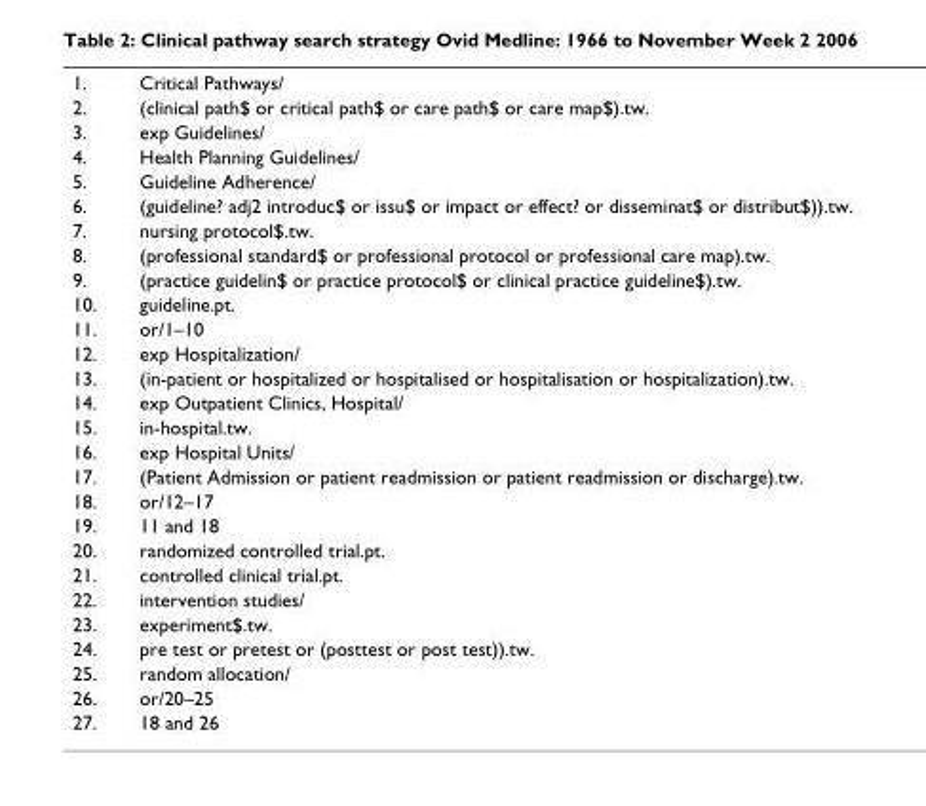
<table><tbody><tr><td>1.</td><td>Critical Pathways/</td></tr><tr><td>2.</td><td>(clinical path$ or critical path$ or care path$ or care map$).tw.</td></tr><tr><td>3.</td><td>exp Guidelines/</td></tr><tr><td>4.</td><td>Health Planning Guidelines/</td></tr><tr><td>5.</td><td>Guideline Adherence/</td></tr><tr><td>6.</td><td>(guideline? adj2 introduc$ or issu$ or impact or effect? or disseminat$ or distribut$)).tw.</td></tr><tr><td>7.</td><td>nursing protocol$.tw.</td></tr><tr><td>8.</td><td>(professional standard$ or professional protocol or professional care map).tw.</td></tr><tr><td>9.</td><td>(practice guidelin$ or practice protocol$ or clinical practice guideline$).tw.</td></tr><tr><td>10.</td><td>guideline.pt.</td></tr><tr><td>11.</td><td>or/1–10</td></tr><tr><td>12.</td><td>exp Hospitalization/</td></tr><tr><td>13.</td><td>(in-patient or hospitalized or hospitalised or hospitalisation or hospitalization).tw.</td></tr><tr><td>14.</td><td>exp Outpatient Clinics, Hospital/</td></tr><tr><td>15.</td><td>in-hospital.tw.</td></tr><tr><td>16.</td><td>exp Hospital Units/</td></tr><tr><td>17.</td><td>(Patient Admission or patient readmission or patient readmission or discharge).tw.</td></tr><tr><td>18.</td><td>or/12–17</td></tr><tr><td>19.</td><td>11 and 18</td></tr><tr><td>20.</td><td>randomized controlled trial.pt.</td></tr><tr><td>21.</td><td>controlled clinical trial.pt.</td></tr><tr><td>22.</td><td>intervention studies/</td></tr><tr><td>23.</td><td>experiment$.tw.</td></tr><tr><td>24.</td><td>pre test or pretest or (posttest or post test)).tw.</td></tr><tr><td>25.</td><td>random allocation/</td></tr><tr><td>26.</td><td>or/20–25</td></tr><tr><td>27.</td><td>18 and 26</td></tr></tbody></table>